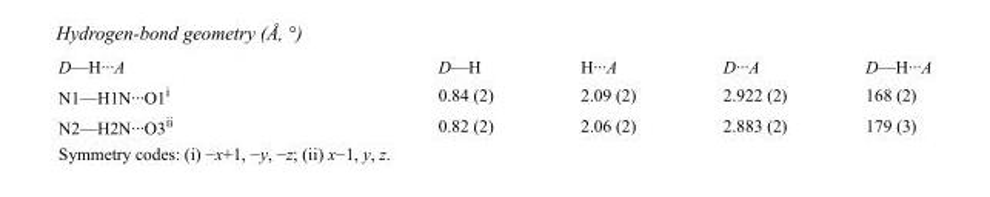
<table><tbody><tr><td>D—H···A</td><td>D—H</td><td>H···A</td><td>D···A</td><td>D—H···A</td></tr><tr><td>N1—H1N···O1<sup>i</sup></td><td>0.84 (2)</td><td>2.09 (2)</td><td>2.922 (2)</td><td>168 (2)</td></tr><tr><td>N2—H2N···O3<sup>ii</sup></td><td>0.82 (2)</td><td>2.06 (2)</td><td>2.883 (2)</td><td>179 (3)</td></tr></tbody></table>